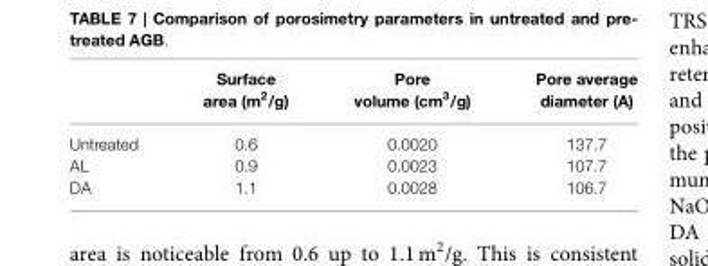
<table><thead><tr><td></td><td>Surface area (m<sup>2</sup>/g)</td><td>Pore volume (cm<sup>3</sup>/g)</td><td>Pore average diameter (A)</td></tr></thead><tbody><tr><td>Untreated</td><td>0.6</td><td>0.0020</td><td>137.7</td></tr><tr><td>AL</td><td>0.9</td><td>0.0023</td><td>107.7</td></tr><tr><td>DA</td><td>1.1</td><td>0.0028</td><td>106.7</td></tr></tbody></table>